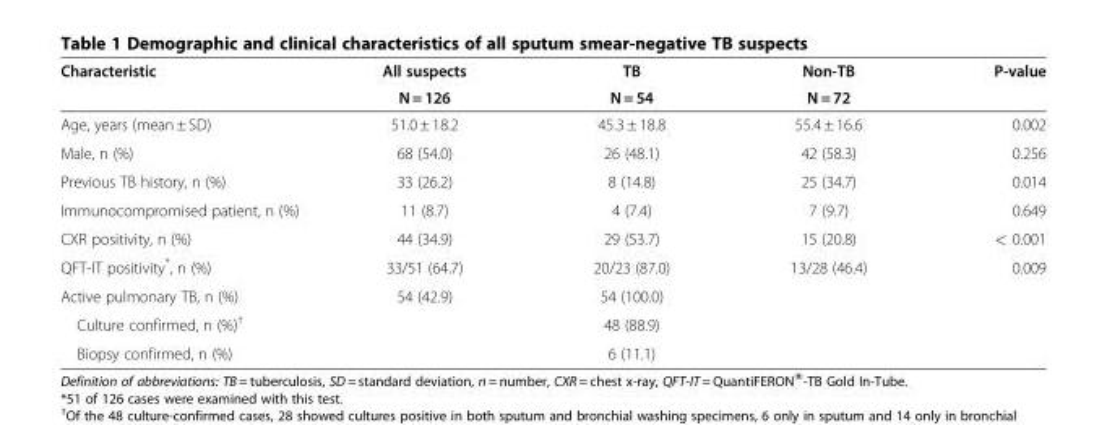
<table><thead><tr><td rowspan="2">Characteristic</td><td rowspan="2">All suspects N = 126</td><td rowspan="2">TB N = 54</td><td rowspan="2">Non-TB N = 72</td><td rowspan="2">P-value</td></tr><tr></tr></thead><tbody><tr><td>Age, years (mean ± SD)</td><td>51.0 ± 18.2</td><td>45.3 ± 18.8</td><td>55.4 ± 16.6</td><td>0.002</td></tr><tr><td>Male, n (%)</td><td>68 (54.0)</td><td>26 (48.1)</td><td>42 (58.3)</td><td>0.256</td></tr><tr><td>Previous TB history, n (%)</td><td>33 (26.2)</td><td>8 (14.8)</td><td>25 (34.7)</td><td>0.014</td></tr><tr><td>Immunocompromised patient, n (%)</td><td>11 (8.7)</td><td>4 (7.4)</td><td>7 (9.7)</td><td>0.649</td></tr><tr><td>CXR positivity, n (%)</td><td>44 (34.9)</td><td>29 (53.7)</td><td>15 (20.8)</td><td>&lt; 0.001</td></tr><tr><td>QFT-IT positivity*, n (%)</td><td>33/51 (64.7)</td><td>20/23 (87.0)</td><td>13/28 (46.4)</td><td>0.009</td></tr><tr><td>Active pulmonary TB, n (%)</td><td>54 (42.9)</td><td>54 (100.0)</td><td></td><td></td></tr><tr><td>Culture confirmed, n (%)<sup>†</sup></td><td></td><td>48 (88.9)</td><td></td><td></td></tr><tr><td>Biopsy confirmed, n (%)</td><td></td><td>6 (11.1)</td><td></td><td></td></tr></tbody></table>